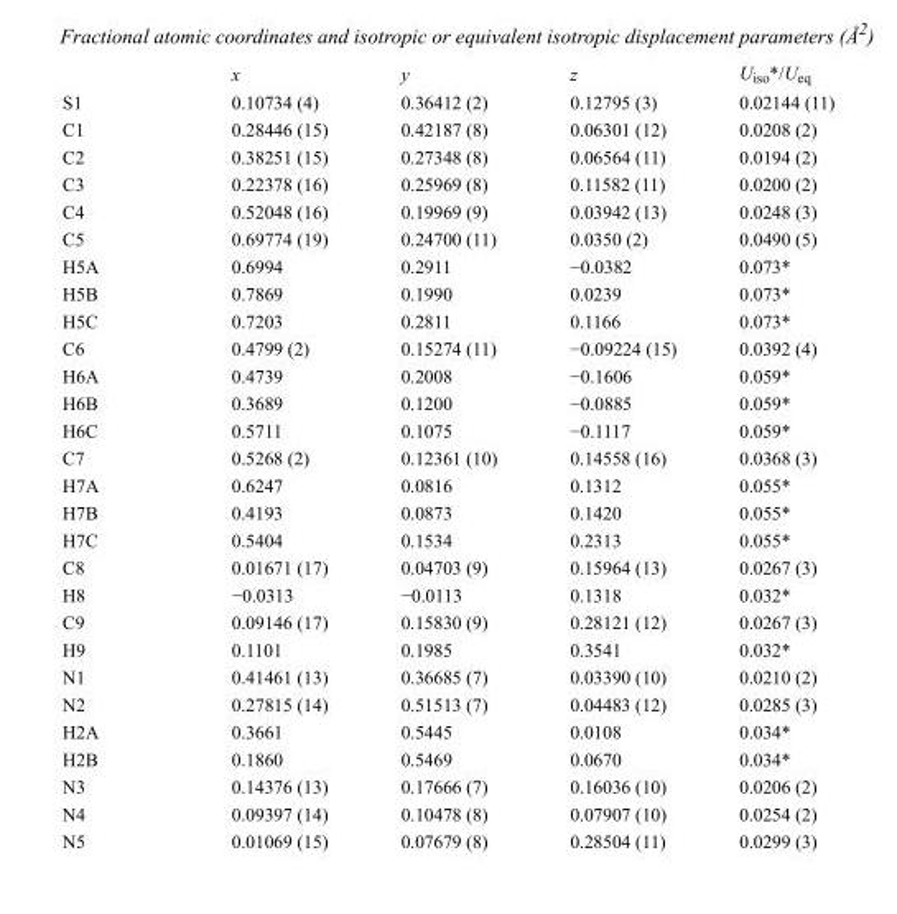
<table><thead><tr><td></td><td>x</td><td>y</td><td>z</td><td>U<sub>iso</sub>*/U<sub>eq</sub></td></tr></thead><tbody><tr><td>S1</td><td>0.10734 (4)</td><td>0.36412 (2)</td><td>0.12795 (3)</td><td>0.02144 (11)</td></tr><tr><td>C1</td><td>0.28446 (15)</td><td>0.42187 (8)</td><td>0.06301 (12)</td><td>0.0208 (2)</td></tr><tr><td>C2</td><td>0.38251 (15)</td><td>0.27348 (8)</td><td>0.06564 (11)</td><td>0.0194 (2)</td></tr><tr><td>C3</td><td>0.22378 (16)</td><td>0.25969 (8)</td><td>0.11582 (11)</td><td>0.0200 (2)</td></tr><tr><td>C4</td><td>0.52048 (16)</td><td>0.19969 (9)</td><td>0.03942 (13)</td><td>0.0248 (3)</td></tr><tr><td>C5</td><td>0.69774 (19)</td><td>0.24700 (11)</td><td>0.0350 (2)</td><td>0.0490 (5)</td></tr><tr><td>H5A</td><td>0.6994</td><td>0.2911</td><td>−0.0382</td><td>0.073*</td></tr><tr><td>H5B</td><td>0.7869</td><td>0.1990</td><td>0.0239</td><td>0.073*</td></tr><tr><td>H5C</td><td>0.7203</td><td>0.2811</td><td>0.1166</td><td>0.073*</td></tr><tr><td>C6</td><td>0.4799 (2)</td><td>0.15274 (11)</td><td>−0.09224 (15)</td><td>0.0392 (4)</td></tr><tr><td>H6A</td><td>0.4739</td><td>0.2008</td><td>−0.1606</td><td>0.059*</td></tr><tr><td>H6B</td><td>0.3689</td><td>0.1200</td><td>−0.0885</td><td>0.059*</td></tr><tr><td>H6C</td><td>0.5711</td><td>0.1075</td><td>−0.1117</td><td>0.059*</td></tr><tr><td>C7</td><td>0.5268 (2)</td><td>0.12361 (10)</td><td>0.14558 (16)</td><td>0.0368 (3)</td></tr><tr><td>H7A</td><td>0.6247</td><td>0.0816</td><td>0.1312</td><td>0.055*</td></tr><tr><td>H7B</td><td>0.4193</td><td>0.0873</td><td>0.1420</td><td>0.055*</td></tr><tr><td>H7C</td><td>0.5404</td><td>0.1534</td><td>0.2313</td><td>0.055*</td></tr><tr><td>C8</td><td>0.01671 (17)</td><td>0.04703 (9)</td><td>0.15964 (13)</td><td>0.0267 (3)</td></tr><tr><td>H8</td><td>−0.0313</td><td>−0.0113</td><td>0.1318</td><td>0.032*</td></tr><tr><td>C9</td><td>0.09146 (17)</td><td>0.15830 (9)</td><td>0.28121 (12)</td><td>0.0267 (3)</td></tr><tr><td>H9</td><td>0.1101</td><td>0.1985</td><td>0.3541</td><td>0.032*</td></tr><tr><td>N1</td><td>0.41461 (13)</td><td>0.36685 (7)</td><td>0.03390 (10)</td><td>0.0210 (2)</td></tr><tr><td>N2</td><td>0.27815 (14)</td><td>0.51513 (7)</td><td>0.04483 (12)</td><td>0.0285 (3)</td></tr><tr><td>H2A</td><td>0.3661</td><td>0.5445</td><td>0.0108</td><td>0.034*</td></tr><tr><td>H2B</td><td>0.1860</td><td>0.5469</td><td>0.0670</td><td>0.034*</td></tr><tr><td>N3</td><td>0.14376 (13)</td><td>0.17666 (7)</td><td>0.16036 (10)</td><td>0.0206 (2)</td></tr><tr><td>N4</td><td>0.09397 (14)</td><td>0.10478 (8)</td><td>0.07907 (10)</td><td>0.0254 (2)</td></tr><tr><td>N5</td><td>0.01069 (15)</td><td>0.07679 (8)</td><td>0.28504 (11)</td><td>0.0299 (3)</td></tr></tbody></table>